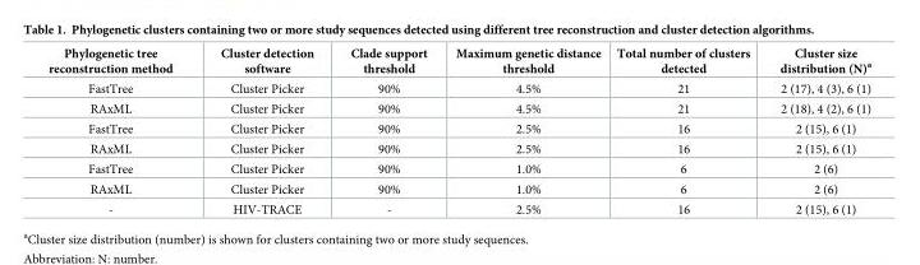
<table><thead><tr><td>Phylogenetic tree reconstruction method</td><td>Cluster detection software</td><td>Clade support threshold</td><td>Maximum genetic distance threshold</td><td>Total number of clusters detected</td><td>Cluster size distribution (N)<sup>a</sup></td></tr></thead><tbody><tr><td>FastTree</td><td>Cluster Picker</td><td>90%</td><td>4.5%</td><td>21</td><td>2 (17), 4 (3), 6 (1)</td></tr><tr><td>RAxML</td><td>Cluster Picker</td><td>90%</td><td>4.5%</td><td>21</td><td>2 (18), 4 (2), 6 (1)</td></tr><tr><td>FastTree</td><td>Cluster Picker</td><td>90%</td><td>2.5%</td><td>16</td><td>2 (15), 6 (1)</td></tr><tr><td>RAxML</td><td>Cluster Picker</td><td>90%</td><td>2.5%</td><td>16</td><td>2 (15), 6 (1)</td></tr><tr><td>FastTree</td><td>Cluster Picker</td><td>90%</td><td>1.0%</td><td>6</td><td>2 (6)</td></tr><tr><td>RAxML</td><td>Cluster Picker</td><td>90%</td><td>1.0%</td><td>6</td><td>2 (6)</td></tr><tr><td>-</td><td>HIV-TRACE</td><td>-</td><td>2.5%</td><td>16</td><td>2 (15), 6 (1)</td></tr></tbody></table>